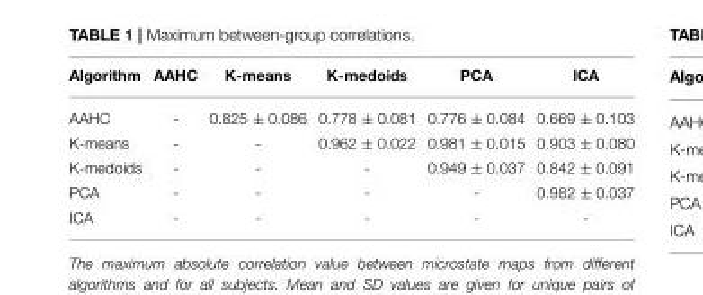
<table><thead><tr><td>Algorithm</td><td>AAHC</td><td>K-means</td><td>K-medoids</td><td>PCA</td><td>ICA</td></tr></thead><tbody><tr><td>AAHC</td><td>-</td><td>0.825 ± 0.086</td><td>0.778 ± 0.081</td><td>0.776 ± 0.084</td><td>0.669 ± 0.103</td></tr><tr><td>K-means</td><td>-</td><td>-</td><td>0.962 ± 0.022</td><td>0.981 ± 0.015</td><td>0.903 ± 0.080</td></tr><tr><td>K-medoids</td><td>-</td><td>-</td><td>-</td><td>0.949 ± 0.037</td><td>0.842 ± 0.091</td></tr><tr><td>PCA</td><td>-</td><td>-</td><td>-</td><td>-</td><td>0.982 ± 0.037</td></tr><tr><td>ICA</td><td>-</td><td>-</td><td>-</td><td>-</td><td>-</td></tr></tbody></table>